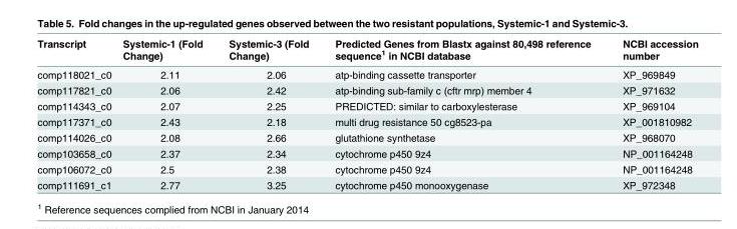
<table><thead><tr><td>Transcript</td><td>Systemic-1 (Fold Change)</td><td>Systemic-3 (Fold Change)</td><td>Predicted Genes from Blastx against 80,498 reference sequence<sup>1</sup> in NCBI database</td><td>NCBI accession number</td></tr></thead><tbody><tr><td>comp118021_c0</td><td>2.11</td><td>2.06</td><td>atp-binding cassette transporter</td><td>XP_969849</td></tr><tr><td>comp117821_c0</td><td>2.06</td><td>2.42</td><td>atp-binding sub-family c (cftr mrp) member 4</td><td>XP_971632</td></tr><tr><td>comp114343_c0</td><td>2.07</td><td>2.25</td><td>PREDICTED: similar to carboxylesterase</td><td>XP_969104</td></tr><tr><td>comp117371_c0</td><td>2.43</td><td>2.18</td><td>multi drug resistance 50 cg8523-pa</td><td>XP_001810982</td></tr><tr><td>comp114026_c0</td><td>2.08</td><td>2.66</td><td>glutathione synthetase</td><td>XP_968070</td></tr><tr><td>comp103658_c0</td><td>2.37</td><td>2.34</td><td>cytochrome p450 9z4</td><td>NP_001164248</td></tr><tr><td>comp106072_c0</td><td>2.5</td><td>2.38</td><td>cytochrome p450 9z4</td><td>NP_001164248</td></tr><tr><td>comp111691_c1</td><td>2.77</td><td>3.25</td><td>cytochrome p450 monooxygenase</td><td>XP_972348</td></tr></tbody></table>